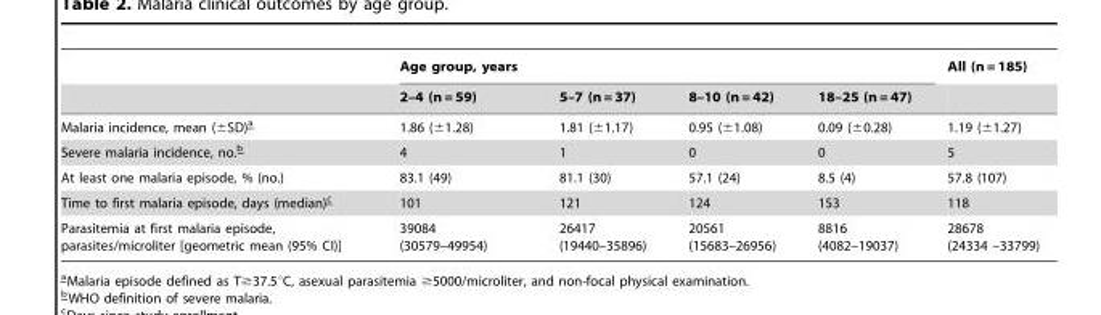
<table><thead><tr><td rowspan="2"></td><td colspan="4">Age group, years</td><td rowspan="2">All (n = 185)</td></tr><tr><td>2–4 (n = 59)</td><td>5–7 (n = 37)</td><td>8–10 (n = 42)</td><td>18–25 (n = 47)</td></tr></thead><tbody><tr><td>Malaria incidence, mean (±SD)a–</td><td>1.86 (±1.28)</td><td>1.81 (±1.17)</td><td>0.95 (±1.08)</td><td>0.09 (±0.28)</td><td>1.19 (±1.27)</td></tr><tr><td>Severe malaria incidence, no.b–</td><td>4</td><td>1</td><td>0</td><td>0</td><td>5</td></tr><tr><td>At least one malaria episode, % (no.)</td><td>83.1 (49)</td><td>81.1 (30)</td><td>57.1 (24)</td><td>8.5 (4)</td><td>57.8 (107)</td></tr><tr><td>Time to first malaria episode, days (median)c–</td><td>101</td><td>121</td><td>124</td><td>153</td><td>118</td></tr><tr><td>Parasitemia at first malaria episode, parasites/microliter [geometric mean (95% CI)]</td><td>39084 (30579–49954)</td><td>26417 (19440–35896)</td><td>20561 (15683–26956)</td><td>8816 (4082–19037)</td><td>28678 (24334 –33799)</td></tr></tbody></table>